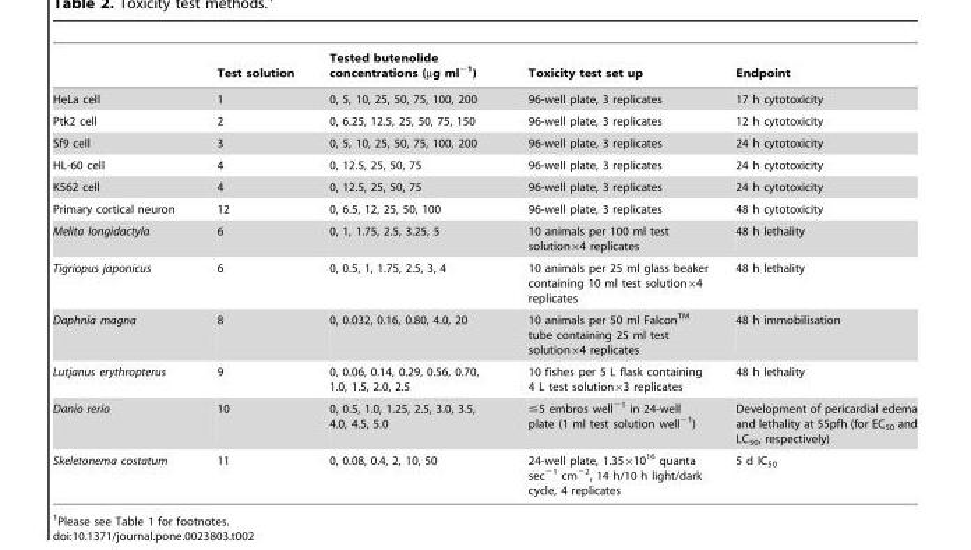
<table><thead><tr><td></td><td>Test solution</td><td>Tested butenolide concentrations (µg ml<sup>−1</sup>)</td><td>Toxicity test set up</td><td>Endpoint</td></tr></thead><tbody><tr><td>HeLa cell</td><td>1</td><td>0, 5, 10, 25, 50, 75, 100, 200</td><td>96-well plate, 3 replicates</td><td>17 h cytotoxicity</td></tr><tr><td>Ptk2 cell</td><td>2</td><td>0, 6.25, 12.5, 25, 50, 75, 150</td><td>96-well plate, 3 replicates</td><td>12 h cytotoxicity</td></tr><tr><td>Sf9 cell</td><td>3</td><td>0, 5, 10, 25, 50, 75, 100, 200</td><td>96-well plate, 3 replicates</td><td>24 h cytotoxicity</td></tr><tr><td>HL-60 cell</td><td>4</td><td>0, 12.5, 25, 50, 75</td><td>96-well plate, 3 replicates</td><td>24 h cytotoxicity</td></tr><tr><td>K562 cell</td><td>4</td><td>0, 12.5, 25, 50, 75</td><td>96-well plate, 3 replicates</td><td>24 h cytotoxicity</td></tr><tr><td>Primary cortical neuron</td><td>12</td><td>0, 6.5, 12, 25, 50, 100</td><td>96-well plate, 3 replicates</td><td>48 h cytotoxicity</td></tr><tr><td>Melita longidactyla</td><td>6</td><td>0, 1, 1.75, 2.5, 3.25, 5</td><td>10 animals per 100 ml test solution×4 replicates</td><td>48 h lethality</td></tr><tr><td>Tigriopus japonicus</td><td>6</td><td>0, 0.5, 1, 1.75, 2.5, 3, 4</td><td>10 animals per 25 ml glass beaker containing 10 ml test solution×4 replicates</td><td>48 h lethality</td></tr><tr><td>Daphnia magna</td><td>8</td><td>0, 0.032, 0.16, 0.80, 4.0, 20</td><td>10 animals per 50 ml FalconTM tube containing 25 ml test solution64 replicates</td><td>48 h immobilisation</td></tr><tr><td>Lutjanus erythropterus</td><td>9</td><td>0, 0.06, 0.14, 0.29, 0.56, 0.70, 1.0, 1.5, 2.0, 2.5</td><td>10 fishes per 5 L flask containing 4 L test solution×3 replicates</td><td>48 h lethality</td></tr><tr><td>Danio rerio</td><td>10</td><td>0, 0.5, 1.0, 1.25, 2.5, 3.0, 3.5, 4.0, 4.5, 5.0</td><td>≤5 embros well<sup>−1</sup> in 24-well plate (1 ml test solution well<sup>−1</sup>)</td><td>Development of pericardial edema and lethality at 55pfh (for EC<sub>50</sub> and LC<sub>50</sub>, respectively)</td></tr><tr><td>Skeletonema costatum</td><td>11</td><td>0, 0.08, 0.4, 2, 10, 50</td><td>24-well plate, 1.35×10<sup>16</sup> quanta sec<sup>−1</sup> cm<sup>−2</sup>, 14 h/10 h light/dark cycle, 4 replicates</td><td>5 d IC<sub>50</sub></td></tr></tbody></table>